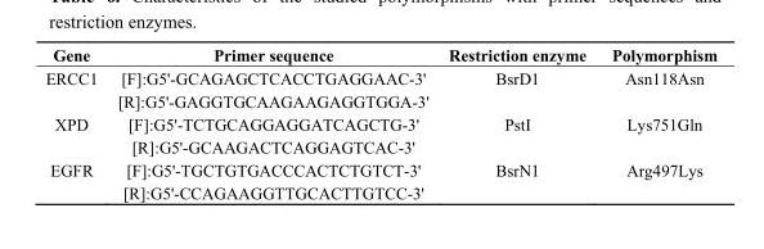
<table><thead><tr><td>Gene</td><td>Primer sequence</td><td>Restriction enzyme</td><td>Polymorphism</td></tr></thead><tbody><tr><td rowspan="2">ERCC1</td><td>[F]:G5&#x27;-GCAGAGCTCACCTGAGGAAC-3&#x27;</td><td>BsrD1</td><td>Asn118Asn</td></tr><tr><td>[R]:G5&#x27;-GAGGTGCAAGAAGAGGTGGA-3&#x27;</td><td></td><td></td></tr><tr><td rowspan="2">XPD</td><td>[F]:G5&#x27;-TCTGCAGGAGGATCAGCTG-3&#x27;</td><td>PstI</td><td>Lys751Gln</td></tr><tr><td>[R]:G5&#x27;-GCAAGACTCAGGAGTCAC-3&#x27;</td><td></td><td></td></tr><tr><td rowspan="2">EGFR</td><td>[F]:G5&#x27;-TGCTGTGACCCACTCTGTCT-3&#x27;</td><td>BsrN1</td><td>Arg497Lys</td></tr><tr><td>[R]:G5&#x27;-CCAGAAGGTTGCACTTGTCC-3&#x27;</td><td></td><td></td></tr></tbody></table>